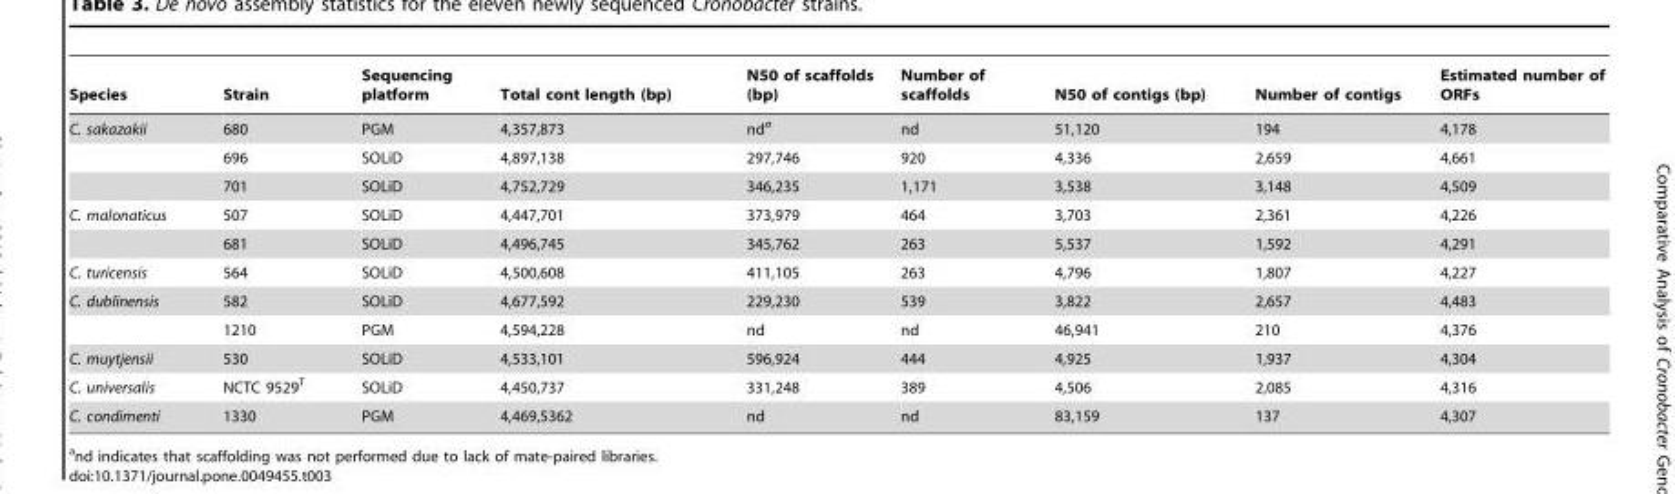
<table><thead><tr><td>Species</td><td>Strain</td><td>Sequencing platform</td><td>Total cont length (bp)</td><td>N50 of scaffolds (bp)</td><td>Number of scaffolds</td><td>N50 of contigs (bp)</td><td>Number of contigs</td><td>Estimated number of ORFs</td></tr></thead><tbody><tr><td rowspan="3">C. sakazakii</td><td>680</td><td>PGM</td><td>4,357,873</td><td>nd<sup>a</sup></td><td>nd</td><td>51,120</td><td>194</td><td>4,178</td></tr><tr><td>696</td><td>SOLiD</td><td>4,897,138</td><td>297,746</td><td>920</td><td>4,336</td><td>2,659</td><td>4,661</td></tr><tr><td>701</td><td>SOLiD</td><td>4,752,729</td><td>346,235</td><td>1,171</td><td>3,538</td><td>3,148</td><td>4,509</td></tr><tr><td rowspan="2">C. malonaticus</td><td>507</td><td>SOLiD</td><td>4,447,701</td><td>373,979</td><td>464</td><td>3,703</td><td>2,361</td><td>4,226</td></tr><tr><td>681</td><td>SOLiD</td><td>4,496,745</td><td>345,762</td><td>263</td><td>5,537</td><td>1,592</td><td>4,291</td></tr><tr><td>C. turicensis</td><td>564</td><td>SOLiD</td><td>4,500,608</td><td>411,105</td><td>263</td><td>4,796</td><td>1,807</td><td>4,227</td></tr><tr><td rowspan="2">C. dublinensis</td><td>582</td><td>SOLiD</td><td>4,677,592</td><td>229,230</td><td>539</td><td>3,822</td><td>2,657</td><td>4,483</td></tr><tr><td>1210</td><td>PGM</td><td>4,594,228</td><td>nd</td><td>nd</td><td>46,941</td><td>210</td><td>4,376</td></tr><tr><td>C. muytjensii</td><td>530</td><td>SOLiD</td><td>4,533,101</td><td>596,924</td><td>444</td><td>4,925</td><td>1,937</td><td>4,304</td></tr><tr><td>C. universalis</td><td>NCTC 9529<sup>T</sup></td><td>SOLiD</td><td>4,450,737</td><td>331,248</td><td>389</td><td>4,506</td><td>2,085</td><td>4,316</td></tr><tr><td>C. condimenti</td><td>1330</td><td>PGM</td><td>4,469,5362</td><td>nd</td><td>nd</td><td>83,159</td><td>137</td><td>4,307</td></tr></tbody></table>